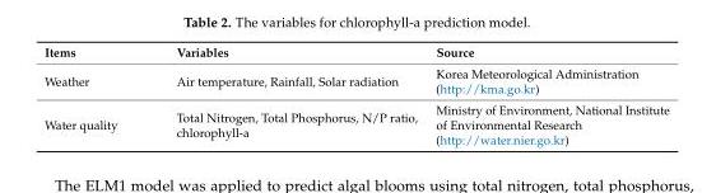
<table><thead><tr><td>Items</td><td>Variables</td><td>Source</td></tr></thead><tbody><tr><td>Weather</td><td>Air temperature, Rainfall, Solar radiation</td><td>Korea Meteorological Administration (http://kma.go.kr)</td></tr><tr><td>Water quality</td><td>Total Nitrogen, Total Phosphorus, N/P ratio, chlorophyll-a</td><td>Ministry of Environment, National Institute of Environmental Research (http://water.nier.go.kr)</td></tr></tbody></table>